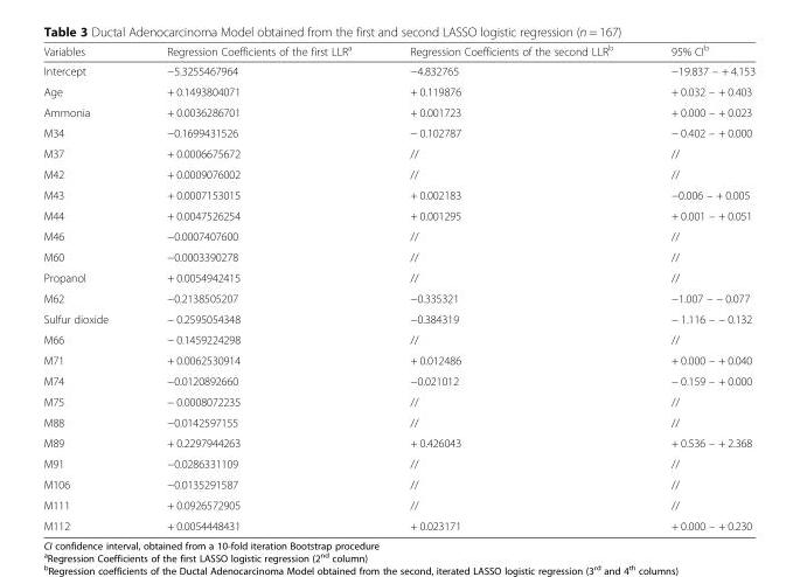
<table><thead><tr><td>Variables</td><td>Regression Coefficients of the first LLR<sup>a</sup></td><td>Regression Coefficients of the second LLR<sup>b</sup></td><td>95% CI<sup>b</sup></td></tr></thead><tbody><tr><td>Intercept</td><td>−5.3255467964</td><td>−4.832765</td><td>−19.837 – + 4.153</td></tr><tr><td>Age</td><td>+ 0.1493804071</td><td>+ 0.119876</td><td>+ 0.032 – + 0.403</td></tr><tr><td>Ammonia</td><td>+ 0.0036286701</td><td>+ 0.001723</td><td>+ 0.000 – + 0.023</td></tr><tr><td>M34</td><td>−0.1699431526</td><td>− 0.102787</td><td>− 0.402 – + 0.000</td></tr><tr><td>M37</td><td>+ 0.0006675672</td><td>//</td><td>//</td></tr><tr><td>M42</td><td>+ 0.0009076002</td><td>//</td><td>//</td></tr><tr><td>M43</td><td>+ 0.0007153015</td><td>+ 0.002183</td><td>−0.006 – + 0.005</td></tr><tr><td>M44</td><td>+ 0.0047526254</td><td>+ 0.001295</td><td>+ 0.001 – + 0.051</td></tr><tr><td>M46</td><td>−0.0007407600</td><td>//</td><td>//</td></tr><tr><td>M60</td><td>−0.0003390278</td><td>//</td><td>//</td></tr><tr><td>Propanol</td><td>+ 0.0054942415</td><td>//</td><td>//</td></tr><tr><td>M62</td><td>−0.2138505207</td><td>−0.335321</td><td>−1.007 – − 0.077</td></tr><tr><td>Sulfur dioxide</td><td>− 0.2595054348</td><td>−0.384319</td><td>− 1.116 – − 0.132</td></tr><tr><td>M66</td><td>− 0.1459224298</td><td>//</td><td>//</td></tr><tr><td>M71</td><td>+ 0.0062530914</td><td>+ 0.012486</td><td>+ 0.000 – + 0.040</td></tr><tr><td>M74</td><td>−0.0120892660</td><td>−0.021012</td><td>− 0.159 – + 0.000</td></tr><tr><td>M75</td><td>− 0.0008072235</td><td>//</td><td>//</td></tr><tr><td>M88</td><td>−0.0142597155</td><td>//</td><td>//</td></tr><tr><td>M89</td><td>+ 0.2297944263</td><td>+ 0.426043</td><td>+ 0.536 – + 2.368</td></tr><tr><td>M91</td><td>−0.0286331109</td><td>//</td><td>//</td></tr><tr><td>M106</td><td>−0.0135291587</td><td>//</td><td>//</td></tr><tr><td>M111</td><td>+ 0.0926572905</td><td>//</td><td>//</td></tr><tr><td>M112</td><td>+ 0.0054448431</td><td>+ 0.023171</td><td>+ 0.000 – + 0.230</td></tr></tbody></table>